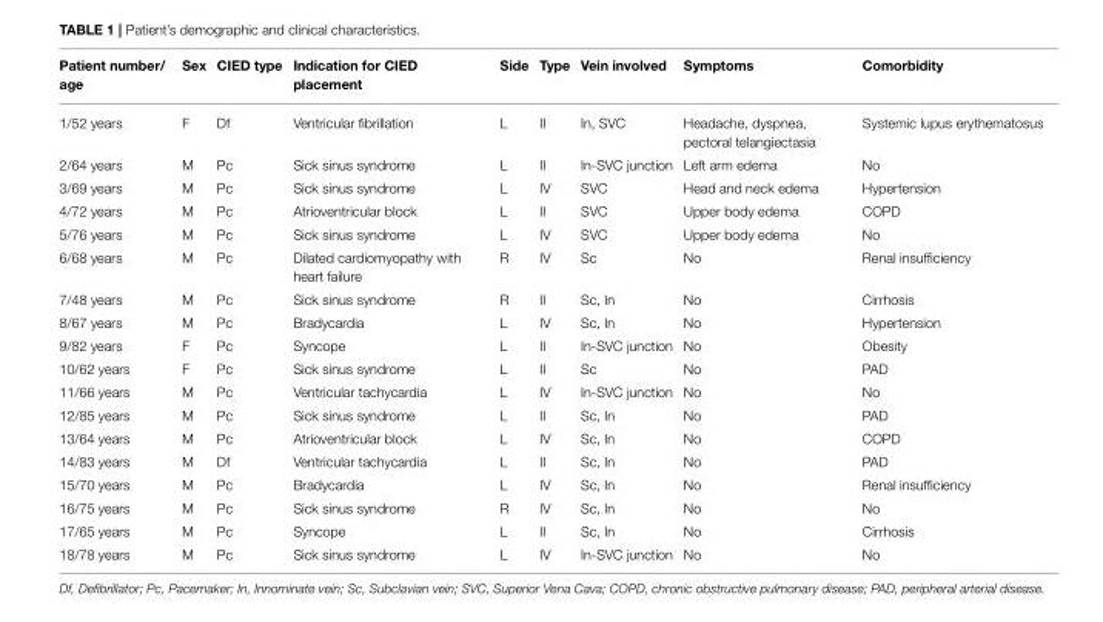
<table><thead><tr><td>Patient number/ age</td><td>Sex</td><td>CIED type</td><td>Indication for CIED placement</td><td>Side</td><td>Type</td><td>Vein involved</td><td>Symptoms</td><td>Comorbidity</td></tr></thead><tbody><tr><td>1/52 years</td><td>F</td><td>Df</td><td>Ventricular fibrillation</td><td>L</td><td>II</td><td>In, SVC</td><td>Headache, dyspnea, pectoral telangiectasia</td><td>Systemic lupus erythematosus</td></tr><tr><td>2/64 years</td><td>M</td><td>Pc</td><td>Sick sinus syndrome</td><td>L</td><td>II</td><td>In-SVC junction</td><td>Left arm edema</td><td>No</td></tr><tr><td>3/69 years</td><td>M</td><td>Pc</td><td>Sick sinus syndrome</td><td>L</td><td>IV</td><td>SVC</td><td>Head and neck edema</td><td>Hypertension</td></tr><tr><td>4/72 years</td><td>M</td><td>Pc</td><td>Atrioventricular block</td><td>L</td><td>II</td><td>SVC</td><td>Upper body edema</td><td>COPD</td></tr><tr><td>5/76 years</td><td>M</td><td>Pc</td><td>Sick sinus syndrome</td><td>L</td><td>IV</td><td>SVC</td><td>Upper body edema</td><td>No</td></tr><tr><td>6/68 years</td><td>M</td><td>Pc</td><td>Dilated cardiomyopathy with heart failure</td><td>R</td><td>IV</td><td>Sc</td><td>No</td><td>Renal insufficiency</td></tr><tr><td>7/48 years</td><td>M</td><td>Pc</td><td>Sick sinus syndrome</td><td>R</td><td>II</td><td>Sc, In</td><td>No</td><td>Cirrhosis</td></tr><tr><td>8/67 years</td><td>M</td><td>Pc</td><td>Bradycardia</td><td>L</td><td>IV</td><td>Sc, In</td><td>No</td><td>Hypertension</td></tr><tr><td>9/82 years</td><td>F</td><td>Pc</td><td>Syncope</td><td>L</td><td>II</td><td>In-SVC junction</td><td>No</td><td>Obesity</td></tr><tr><td>10/62 years</td><td>F</td><td>Pc</td><td>Sick sinus syndrome</td><td>L</td><td>II</td><td>Sc</td><td>No</td><td>PAD</td></tr><tr><td>11/66 years</td><td>M</td><td>Pc</td><td>Ventricular tachycardia</td><td>L</td><td>IV</td><td>In-SVC junction</td><td>No</td><td>No</td></tr><tr><td>12/85 years</td><td>M</td><td>Pc</td><td>Sick sinus syndrome</td><td>L</td><td>II</td><td>Sc, In</td><td>No</td><td>PAD</td></tr><tr><td>13/64 years</td><td>M</td><td>Pc</td><td>Atrioventricular block</td><td>L</td><td>IV</td><td>Sc, In</td><td>No</td><td>COPD</td></tr><tr><td>14/83 years</td><td>M</td><td>Df</td><td>Ventricular tachycardia</td><td>L</td><td>II</td><td>Sc, In</td><td>No</td><td>PAD</td></tr><tr><td>15/70 years</td><td>M</td><td>Pc</td><td>Bradycardia</td><td>L</td><td>IV</td><td>Sc, In</td><td>No</td><td>Renal insufficiency</td></tr><tr><td>16/75 years</td><td>M</td><td>Pc</td><td>Sick sinus syndrome</td><td>R</td><td>IV</td><td>Sc, In</td><td>No</td><td>No</td></tr><tr><td>17/65 years</td><td>M</td><td>Pc</td><td>Syncope</td><td>L</td><td>II</td><td>Sc, In</td><td>No</td><td>Cirrhosis</td></tr><tr><td>18/78 years</td><td>M</td><td>Pc</td><td>Sick sinus syndrome</td><td>L</td><td>IV</td><td>In-SVC junction</td><td>No</td><td>No</td></tr></tbody></table>